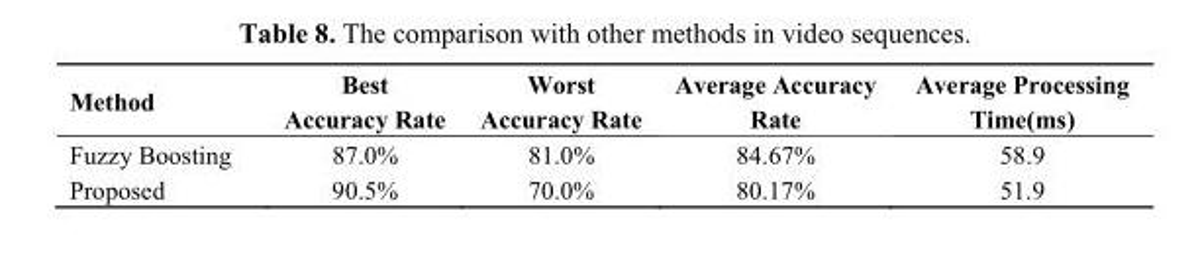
<table><thead><tr><td>Method</td><td>Best Accuracy Rate</td><td>Worst Accuracy Rate</td><td>Average Accuracy Rate</td><td>Average Processing Time(ms)</td></tr></thead><tbody><tr><td>Fuzzy Boosting</td><td>87.0%</td><td>81.0%</td><td>84.67%</td><td>58.9</td></tr><tr><td>Proposed</td><td>90.5%</td><td>70.0%</td><td>80.17%</td><td>51.9</td></tr></tbody></table>